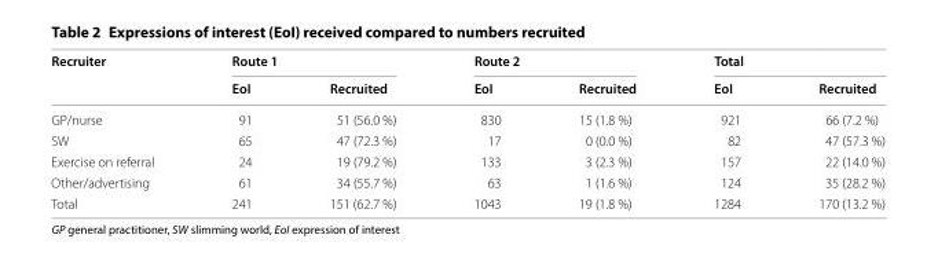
<table><thead><tr><td rowspan="2">Recruiter</td><td colspan="2">Route 1</td><td colspan="2">Route 2</td><td colspan="2">Total</td></tr><tr><td>EoI</td><td>Recruited</td><td>EoI</td><td>Recruited</td><td>EoI</td><td>Recruited</td></tr></thead><tbody><tr><td>GP/nurse</td><td>91</td><td>51 (56.0 %)</td><td>830</td><td>15 (1.8 %)</td><td>921</td><td>66 (7.2 %)</td></tr><tr><td>SW</td><td>65</td><td>47 (72.3 %)</td><td>17</td><td>0 (0.0 %)</td><td>82</td><td>47 (57.3 %)</td></tr><tr><td>Exercise on referral</td><td>24</td><td>19 (79.2 %)</td><td>133</td><td>3 (2.3 %)</td><td>157</td><td>22 (14.0 %)</td></tr><tr><td>Other/advertising</td><td>61</td><td>34 (55.7 %)</td><td>63</td><td>1 (1.6 %)</td><td>124</td><td>35 (28.2 %)</td></tr><tr><td>Total</td><td>241</td><td>151 (62.7 %)</td><td>1043</td><td>19 (1.8 %)</td><td>1284</td><td>170 (13.2 %)</td></tr></tbody></table>